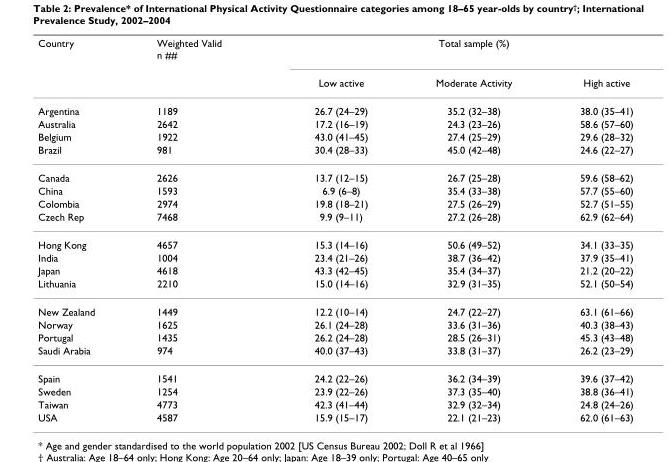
<table><thead><tr><td rowspan="2">Country</td><td rowspan="2">Weighted Valid n ##</td><td colspan="3">Total sample (%)</td></tr><tr><td>Low active</td><td>Moderate Activity</td><td>High active</td></tr></thead><tbody><tr><td>Argentina</td><td>1189</td><td>26.7 (24–29)</td><td>35.2 (32–38)</td><td>38.0 (35–41)</td></tr><tr><td>Australia</td><td>2642</td><td>17.2 (16–19)</td><td>24.3 (23–26)</td><td>58.6 (57–60)</td></tr><tr><td>Belgium</td><td>1922</td><td>43.0 (41–45)</td><td>27.4 (25–29)</td><td>29.6 (28–32)</td></tr><tr><td>Brazil</td><td>981</td><td>30.4 (28–33)</td><td>45.0 (42–48)</td><td>24.6 (22–27)</td></tr><tr><td>Canada</td><td>2626</td><td>13.7 (12–15)</td><td>26.7 (25–28)</td><td>59.6 (58–62)</td></tr><tr><td>China</td><td>1593</td><td>6.9 (6–8)</td><td>35.4 (33–38)</td><td>57.7 (55–60)</td></tr><tr><td>Colombia</td><td>2974</td><td>19.8 (18–21)</td><td>27.5 (26–29)</td><td>52.7 (51–55)</td></tr><tr><td>Czech Rep</td><td>7468</td><td>9.9 (9–11)</td><td>27.2 (26–28)</td><td>62.9 (62–64)</td></tr><tr><td>Hong Kong</td><td>4657</td><td>15.3 (14–16)</td><td>50.6 (49–52)</td><td>34.1 (33–35)</td></tr><tr><td>India</td><td>1004</td><td>23.4 (21–26)</td><td>38.7 (36–42)</td><td>37.9 (35–41)</td></tr><tr><td>Japan</td><td>4618</td><td>43.3 (42–45)</td><td>35.4 (34–37)</td><td>21.2 (20–22)</td></tr><tr><td>Lithuania</td><td>2210</td><td>15.0 (14–16)</td><td>32.9 (31–35)</td><td>52.1 (50–54)</td></tr><tr><td>New Zealand</td><td>1449</td><td>12.2 (10–14)</td><td>24.7 (22–27)</td><td>63.1 (61–66)</td></tr><tr><td>Norway</td><td>1625</td><td>26.1 (24–28)</td><td>33.6 (31–36)</td><td>40.3 (38–43)</td></tr><tr><td>Portugal</td><td>1435</td><td>26.2 (24–28)</td><td>28.5 (26–31)</td><td>45.3 (43–48)</td></tr><tr><td>Saudi Arabia</td><td>974</td><td>40.0 (37–43)</td><td>33.8 (31–37)</td><td>26.2 (23–29)</td></tr><tr><td>Spain</td><td>1541</td><td>24.2 (22–26)</td><td>36.2 (34–39)</td><td>39.6 (37–42)</td></tr><tr><td>Sweden</td><td>1254</td><td>23.9 (22–26)</td><td>37.3 (35–40)</td><td>38.8 (36–41)</td></tr><tr><td>Taiwan</td><td>4773</td><td>42.3 (41–44)</td><td>32.9 (32–34)</td><td>24.8 (24–26)</td></tr><tr><td>USA</td><td>4587</td><td>15.9 (15–17)</td><td>22.1 (21–23)</td><td>62.0 (61–63)</td></tr></tbody></table>